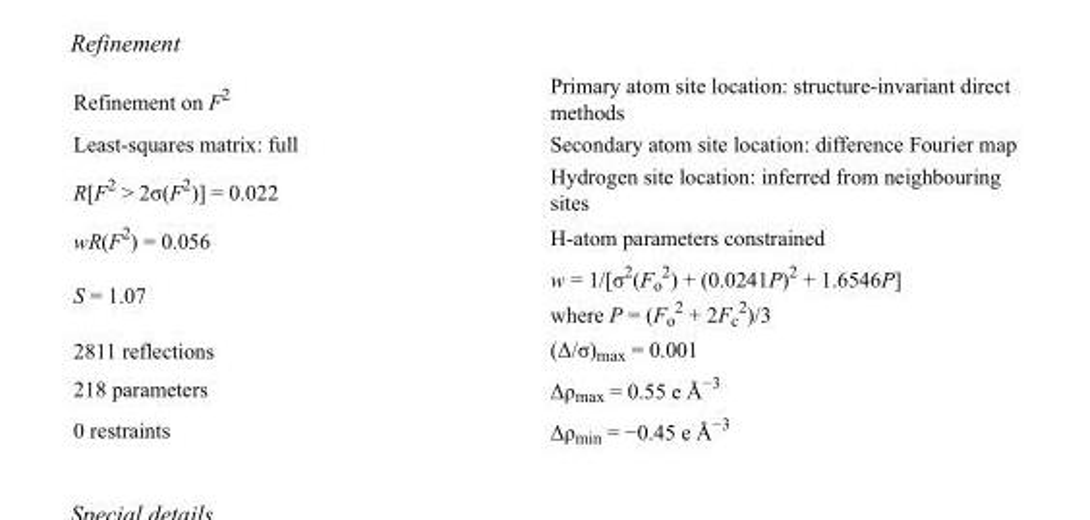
<table><tbody><tr><td>Refinement on F<sup>2</sup></td><td>Primary atom site location: structure-invariant direct methods</td></tr><tr><td>Least-squares matrix: full</td><td>Secondary atom site location: difference Fourier map</td></tr><tr><td>R[F<sup>2</sup> &gt; 2σ(F<sup>2</sup>)] = 0.022</td><td>Hydrogen site location: inferred from neighbouring sites</td></tr><tr><td>wR(F<sup>2</sup>) = 0.056</td><td>H-atom parameters constrained</td></tr><tr><td>S = 1.07</td><td>w = 1/[σ<sup>2</sup>(F<sub>o</sub> <sup>2</sup>) + (0.0241P)<sup>2</sup> + 1.6546P] where P = (F<sub>o</sub> <sup>2</sup> + 2F<sub>c</sub> <sup>2</sup>)/3</td></tr><tr><td>2811 reflections</td><td>(Δ/σ)<sub>max</sub> = 0.001</td></tr><tr><td>218 parameters</td><td>Δρ<sub>max</sub> = 0.55 e Å<sup>−3</sup></td></tr><tr><td>0 restraints</td><td>Δρ<sub>min</sub> = −0.45 e Å<sup>−3</sup></td></tr></tbody></table>